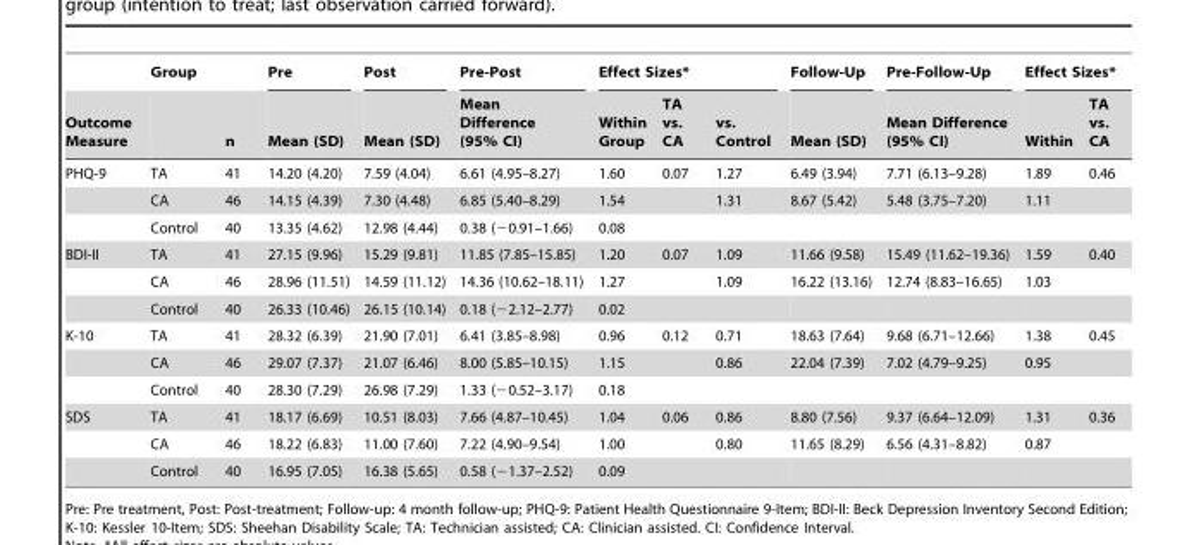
<table><thead><tr><td rowspan="2">Outcome Measure</td><td rowspan="2">Group</td><td rowspan="2">n</td><td rowspan="2">Pre Mean (SD)</td><td rowspan="2">Post Mean (SD)</td><td rowspan="2">Pre-Post Mean Difference (95% CI)</td><td colspan="3">Effect Sizes*</td><td rowspan="2">Follow-Up Mean (SD)</td><td rowspan="2">Pre-Follow-Up Mean Difference (95% CI)</td><td colspan="2">Effect Sizes*</td></tr><tr><td>Within Group</td><td>TA vs. CA</td><td>vs. Control</td><td>Within</td><td>TA vs. CA</td></tr></thead><tbody><tr><td rowspan="3">PHQ-9</td><td>TA</td><td>41</td><td>14.20 (4.20)</td><td>7.59 (4.04)</td><td>6.61 (4.95–8.27)</td><td>1.60</td><td>0.07</td><td>1.27</td><td>6.49 (3.94)</td><td>7.71 (6.13–9.28)</td><td>1.89</td><td>0.46</td></tr><tr><td>CA</td><td>46</td><td>14.15 (4.39)</td><td>7.30 (4.48)</td><td>6.85 (5.40–8.29)</td><td>1.54</td><td></td><td>1.31</td><td>8.67 (5.42)</td><td>5.48 (3.75–7.20)</td><td>1.11</td><td></td></tr><tr><td>Control</td><td>40</td><td>13.35 (4.62)</td><td>12.98 (4.44)</td><td>0.38 (−0.91–1.66)</td><td>0.08</td><td></td><td></td><td></td><td></td><td></td><td></td></tr><tr><td rowspan="3">BDI-II</td><td>TA</td><td>41</td><td>27.15 (9.96)</td><td>15.29 (9.81)</td><td>11.85 (7.85–15.85)</td><td>1.20</td><td>0.07</td><td>1.09</td><td>11.66 (9.58)</td><td>15.49 (11.62–19.36)</td><td>1.59</td><td>0.40</td></tr><tr><td>CA</td><td>46</td><td>28.96 (11.51)</td><td>14.59 (11.12)</td><td>14.36 (10.62–18.11)</td><td>1.27</td><td></td><td>1.09</td><td>16.22 (13.16)</td><td>12.74 (8.83–16.65)</td><td>1.03</td><td></td></tr><tr><td>Control</td><td>40</td><td>26.33 (10.46)</td><td>26.15 (10.14)</td><td>0.18 (−2.12–2.77)</td><td>0.02</td><td></td><td></td><td></td><td></td><td></td><td></td></tr><tr><td rowspan="3">K-10</td><td>TA</td><td>41</td><td>28.32 (6.39)</td><td>21.90 (7.01)</td><td>6.41 (3.85–8.98)</td><td>0.96</td><td>0.12</td><td>0.71</td><td>18.63 (7.64)</td><td>9.68 (6.71–12.66)</td><td>1.38</td><td>0.45</td></tr><tr><td>CA</td><td>46</td><td>29.07 (7.37)</td><td>21.07 (6.46)</td><td>8.00 (5.85–10.15)</td><td>1.15</td><td></td><td>0.86</td><td>22.04 (7.39)</td><td>7.02 (4.79–9.25)</td><td>0.95</td><td></td></tr><tr><td>Control</td><td>40</td><td>28.30 (7.29)</td><td>26.98 (7.29)</td><td>1.33 (−0.52–3.17)</td><td>0.18</td><td></td><td></td><td></td><td></td><td></td><td></td></tr><tr><td rowspan="3">SDS</td><td>TA</td><td>41</td><td>18.17 (6.69)</td><td>10.51 (8.03)</td><td>7.66 (4.87–10.45)</td><td>1.04</td><td>0.06</td><td>0.86</td><td>8.80 (7.56)</td><td>9.37 (6.64–12.09)</td><td>1.31</td><td>0.36</td></tr><tr><td>CA</td><td>46</td><td>18.22 (6.83)</td><td>11.00 (7.60)</td><td>7.22 (4.90–9.54)</td><td>1.00</td><td></td><td>0.80</td><td>11.65 (8.29)</td><td>6.56 (4.31–8.82)</td><td>0.87</td><td></td></tr><tr><td>Control</td><td>40</td><td>16.95 (7.05)</td><td>16.38 (5.65)</td><td>0.58 (−1.37–2.52)</td><td>0.09</td><td></td><td></td><td></td><td></td><td></td><td></td></tr></tbody></table>